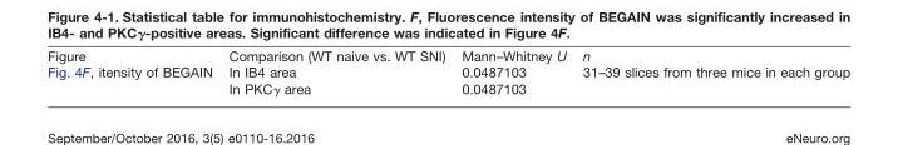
<table><thead><tr><td>Figure</td><td>Comparison (WT naive vs. WT SNI)</td><td>Mann–Whitney U</td><td>n</td></tr></thead><tbody><tr><td rowspan="2">Fig. 4F, itensity of BEGAIN</td><td>In IB4 area</td><td>0.0487103</td><td rowspan="2">31–39 slices from three mice in each group</td></tr><tr><td>In PKCγ area</td><td>0.0487103</td></tr></tbody></table>